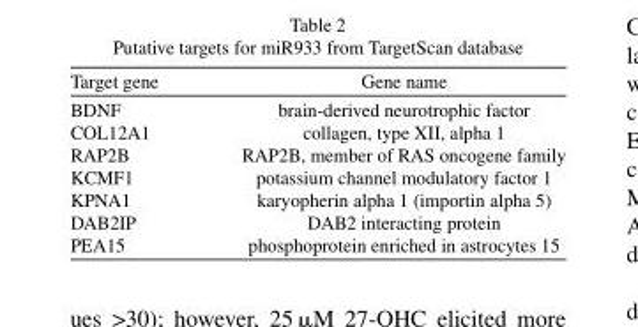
<table><thead><tr><td>Target gene</td><td>Gene name</td></tr></thead><tbody><tr><td>BDNF</td><td>brain-derived neurotrophic factor</td></tr><tr><td>COL12A1</td><td>collagen, type XII, alpha 1</td></tr><tr><td>RAP2B</td><td>RAP2B, member of RAS oncogene family</td></tr><tr><td>KCMF1</td><td>potassium channel modulatory factor 1</td></tr><tr><td>KPNA1</td><td>karyopherin alpha 1 (importin alpha 5)</td></tr><tr><td>DAB2IP</td><td>DAB2 interacting protein</td></tr><tr><td>PEA15</td><td>phosphoprotein enriched in astrocytes 15</td></tr></tbody></table>